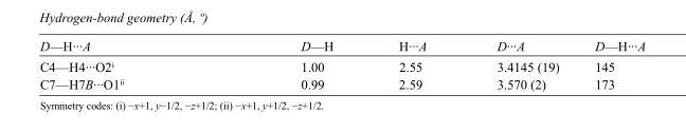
<table><tbody><tr><td>D—H···A</td><td>D—H</td><td>H···A</td><td>D···A</td><td>D—H···A</td></tr><tr><td>C4—H4···O2<sup>i</sup></td><td>1.00</td><td>2.55</td><td>3.4145 (19)</td><td>145</td></tr><tr><td>C7—H7B···O1<sup>ii</sup></td><td>0.99</td><td>2.59</td><td>3.570 (2)</td><td>173</td></tr></tbody></table>